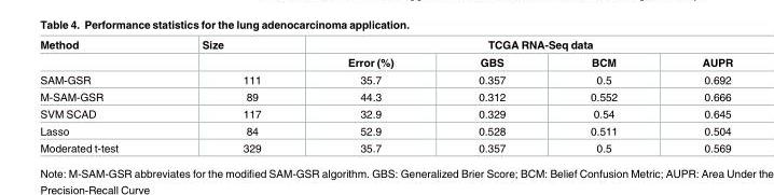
<table><thead><tr><td rowspan="2">Method</td><td rowspan="2">Size</td><td colspan="4">TCGA RNA-Seq data</td></tr><tr><td>Error (%)</td><td>GBS</td><td>BCM</td><td>AUPR</td></tr></thead><tbody><tr><td>SAM-GSR</td><td>111</td><td>35.7</td><td>0.357</td><td>0.5</td><td>0.692</td></tr><tr><td>M-SAM-GSR</td><td>89</td><td>44.3</td><td>0.312</td><td>0.552</td><td>0.666</td></tr><tr><td>SVM SCAD</td><td>117</td><td>32.9</td><td>0.329</td><td>0.54</td><td>0.645</td></tr><tr><td>Lasso</td><td>84</td><td>52.9</td><td>0.528</td><td>0.511</td><td>0.504</td></tr><tr><td>Moderated t-test</td><td>329</td><td>35.7</td><td>0.357</td><td>0.5</td><td>0.569</td></tr></tbody></table>